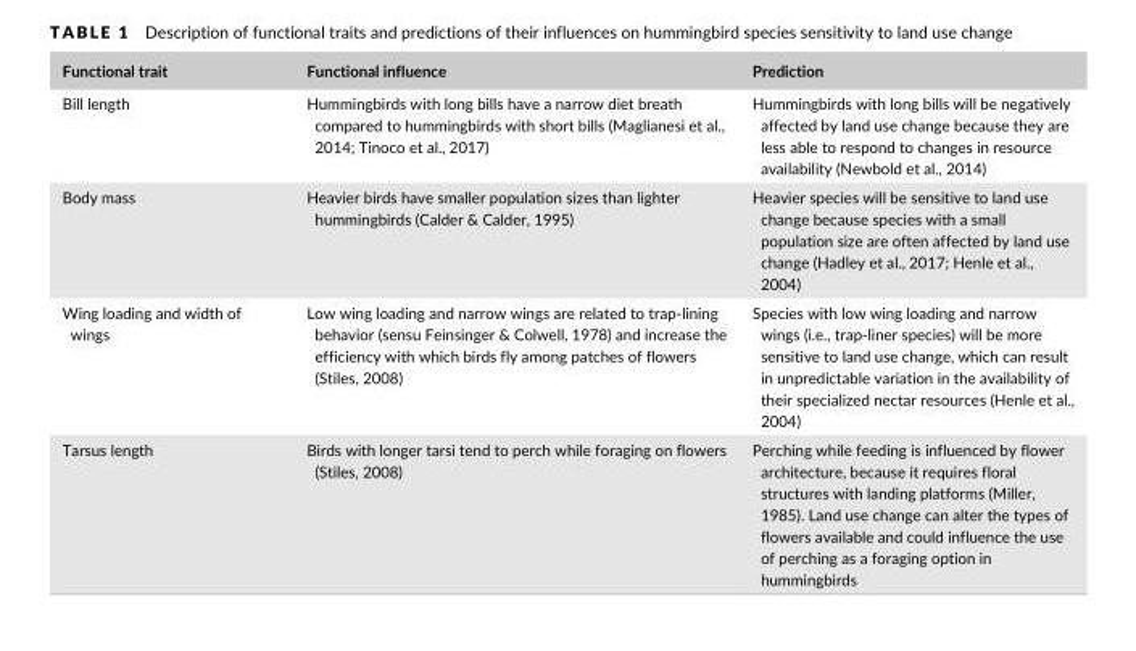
<table><thead><tr><td>Functional trait</td><td>Functional influence</td><td>Prediction</td></tr></thead><tbody><tr><td>Bill length</td><td>Hummingbirds with long bills have a narrow diet breath compared to hummingbirds with short bills (Maglianesi et al., 2014; Tinoco et al., 2017)</td><td>Hummingbirds with long bills will be negatively affected by land use change because they are less able to respond to changes in resource availability (Newbold et al., 2014)</td></tr><tr><td>Body mass</td><td>Heavier birds have smaller population sizes than lighter hummingbirds (Calder &amp; Calder, 1995)</td><td>Heavier species will be sensitive to land use change because species with a small population size are often affected by land use change (Hadley et al., 2017; Henle et al., 2004)</td></tr><tr><td>Wing loading and width of wings</td><td>Low wing loading and narrow wings are related to trap- lining behavior (sensu Feinsinger &amp; Colwell, 1978) and increase the efficiency with which birds fly among patches of flowers (Stiles, 2008)</td><td>Species with low wing loading and narrow wings (i.e., trap- liner species) will be more sensitive to land use change, which can result in unpredictable variation in the availability of their specialized nectar resources (Henle et al., 2004)</td></tr><tr><td>Tarsus length</td><td>Birds with longer tarsi tend to perch while foraging on flowers (Stiles, 2008)</td><td>Perching while feeding is influenced by flower architecture, because it requires floral structures with landing platforms (Miller, 1985). Land use change can alter the types of flowers available and could influence the use of perching as a foraging option in hummingbirds</td></tr></tbody></table>